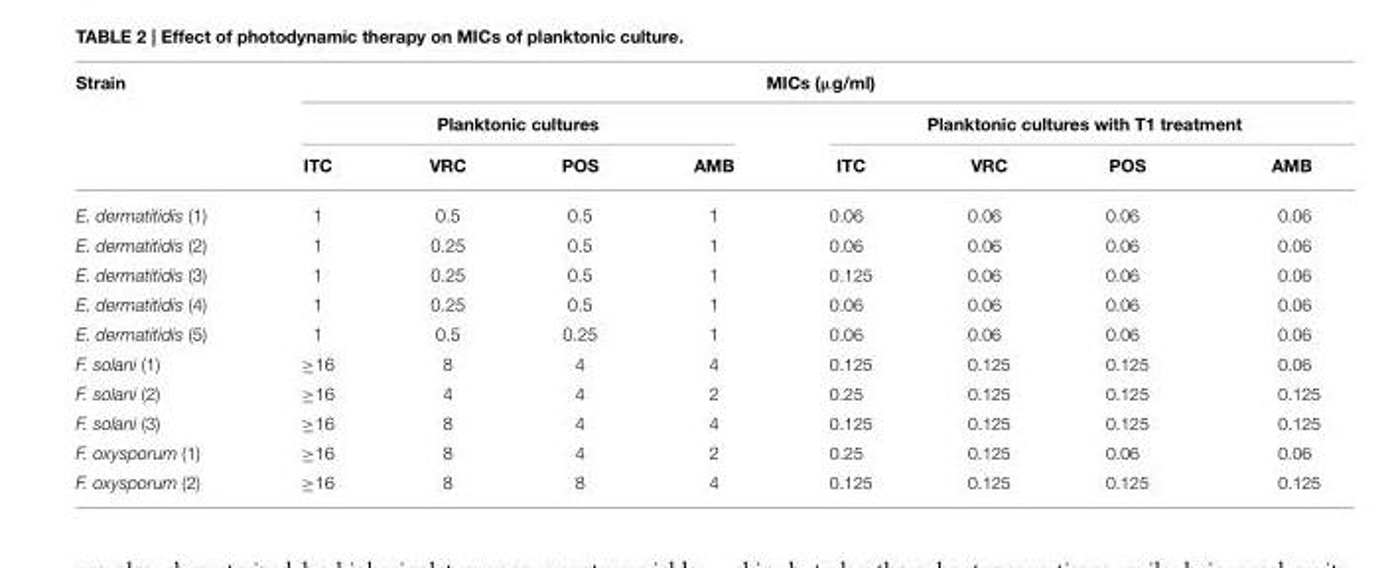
<table><thead><tr><td rowspan="3">Strain</td><td colspan="8">MICs (µg/ml)</td></tr><tr><td colspan="4">Planktonic cultures</td><td colspan="4">Planktonic cultures with T1 treatment</td></tr><tr><td>ITC</td><td>VRC</td><td>POS</td><td>AMB</td><td>ITC</td><td>VRC</td><td>POS</td><td>AMB</td></tr></thead><tbody><tr><td>E. dermatitidis (1)</td><td>1</td><td>0.5</td><td>0.5</td><td>1</td><td>0.06</td><td>0.06</td><td>0.06</td><td>0.06</td></tr><tr><td>E. dermatitidis (2)</td><td>1</td><td>0.25</td><td>0.5</td><td>1</td><td>0.06</td><td>0.06</td><td>0.06</td><td>0.06</td></tr><tr><td>E. dermatitidis (3)</td><td>1</td><td>0.25</td><td>0.5</td><td>1</td><td>0.125</td><td>0.06</td><td>0.06</td><td>0.06</td></tr><tr><td>E. dermatitidis (4)</td><td>1</td><td>0.25</td><td>0.5</td><td>1</td><td>0.06</td><td>0.06</td><td>0.06</td><td>0.06</td></tr><tr><td>E. dermatitidis (5)</td><td>1</td><td>0.5</td><td>0.25</td><td>1</td><td>0.06</td><td>0.06</td><td>0.06</td><td>0.06</td></tr><tr><td>F. solani (1)</td><td>≥16</td><td>8</td><td>4</td><td>4</td><td>0.125</td><td>0.125</td><td>0.125</td><td>0.06</td></tr><tr><td>F. solani (2)</td><td>≥16</td><td>4</td><td>4</td><td>2</td><td>0.25</td><td>0.125</td><td>0.125</td><td>0.125</td></tr><tr><td>F. solani (3)</td><td>≥16</td><td>8</td><td>4</td><td>4</td><td>0.125</td><td>0.125</td><td>0.125</td><td>0.125</td></tr><tr><td>F. oxysporum (1)</td><td>≥16</td><td>8</td><td>4</td><td>2</td><td>0.25</td><td>0.125</td><td>0.06</td><td>0.06</td></tr><tr><td>F. oxysporum (2)</td><td>≥16</td><td>8</td><td>8</td><td>4</td><td>0.125</td><td>0.125</td><td>0.125</td><td>0.125</td></tr></tbody></table>